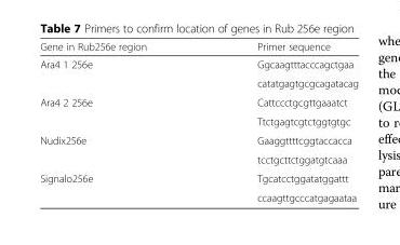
<table><thead><tr><td>Gene in Rub256e region</td><td>Primer sequence</td></tr></thead><tbody><tr><td rowspan="2">Ara4 1 256e</td><td>Ggcaagtttacccagctgaa</td></tr><tr><td>catatgagtgcgcagatacag</td></tr><tr><td rowspan="2">Ara4 2 256e</td><td>Cattccctgcgttgaaatct</td></tr><tr><td>Ttctgagtcgtctggtgtgc</td></tr><tr><td rowspan="2">Nudix256e</td><td>Gaaggttttcggtaccacca</td></tr><tr><td>tcctgcttctggatgtcaaa</td></tr><tr><td rowspan="2">Signalo256e</td><td>Tgcatcctggatatggattt</td></tr><tr><td>ccaagttgcccatgagaataa</td></tr></tbody></table>